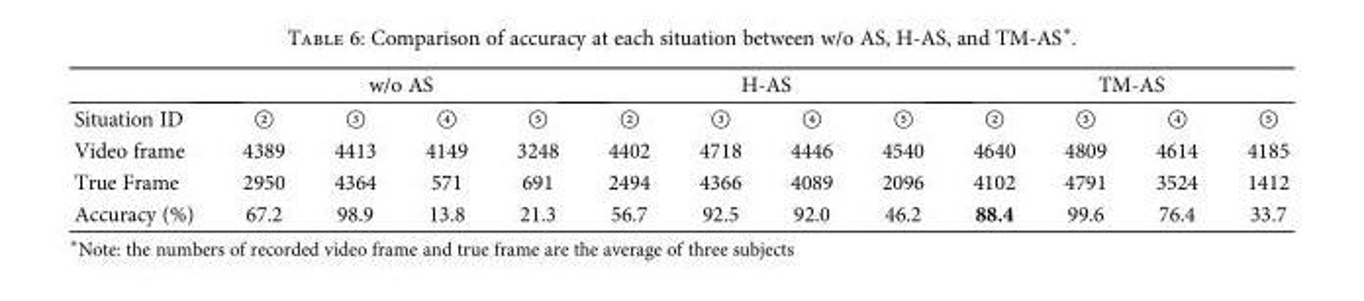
<table><thead><tr><td rowspan="2">Situation ID</td><td colspan="4">w/o AS</td><td colspan="4">H-AS</td><td colspan="4">TM-AS</td></tr><tr><td>②</td><td>③</td><td>④</td><td>⑤</td><td>②</td><td>③</td><td>④</td><td>⑤</td><td>②</td><td>③</td><td>④</td><td>⑤</td></tr></thead><tbody><tr><td>Video frame</td><td>4389</td><td>4413</td><td>4149</td><td>3248</td><td>4402</td><td>4718</td><td>4446</td><td>4540</td><td>4640</td><td>4809</td><td>4614</td><td>4185</td></tr><tr><td>True Frame</td><td>2950</td><td>4364</td><td>571</td><td>691</td><td>2494</td><td>4366</td><td>4089</td><td>2096</td><td>4102</td><td>4791</td><td>3524</td><td>1412</td></tr><tr><td>Accuracy (%)</td><td>67.2</td><td>98.9</td><td>13.8</td><td>21.3</td><td>56.7</td><td>92.5</td><td>92.0</td><td>46.2</td><td>88.4</td><td>99.6</td><td>76.4</td><td>33.7</td></tr></tbody></table>